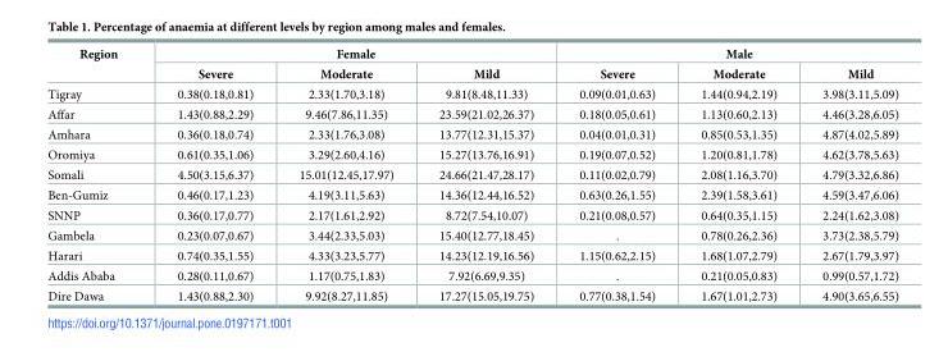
<table><thead><tr><td rowspan="2">Region</td><td colspan="3">Female</td><td colspan="3">Male</td></tr><tr><td>Severe</td><td>Moderate</td><td>Mild</td><td>Severe</td><td>Moderate</td><td>Mild</td></tr></thead><tbody><tr><td>Tigray</td><td>0.38(0.18,0.81)</td><td>2.33(1.70,3.18)</td><td>9.81(8.48,11.33)</td><td>0.09(0.01,0.63)</td><td>1.44(0.94,2.19)</td><td>3.98(3.11,5.09)</td></tr><tr><td>Affar</td><td>1.43(0.88,2.29)</td><td>9.46(7.86,11.35)</td><td>23.59(21.02,26.37)</td><td>0.18(0.05,0.61)</td><td>1.13(0.60,2.13)</td><td>4.46(3.28,6.05)</td></tr><tr><td>Amhara</td><td>0.36(0.18,0.74)</td><td>2.33(1.76,3.08)</td><td>13.77(12.31,15.37)</td><td>0.04(0.01,0.31)</td><td>0.85(0.53,1.35)</td><td>4.87(4.02,5.89)</td></tr><tr><td>Oromiya</td><td>0.61(0.35,1.06)</td><td>3.29(2.60,4.16)</td><td>15.27(13.76,16.91)</td><td>0.19(0.07,0.52)</td><td>1.20(0.81,1.78)</td><td>4.62(3.78,5.63)</td></tr><tr><td>Somali</td><td>4.50(3.15,6.37)</td><td>15.01(12.45,17.97)</td><td>24.66(21.47,28.17)</td><td>0.11(0.02,0.79)</td><td>2.08(1.16,3.70)</td><td>4.79(3.32,6.86)</td></tr><tr><td>Ben-Gumiz</td><td>0.46(0.17,1.23)</td><td>4.19(3.11,5.63)</td><td>14.36(12.44,16.52)</td><td>0.63(0.26,1.55)</td><td>2.39(1.58,3.61)</td><td>4.59(3.47,6.06)</td></tr><tr><td>SNNP</td><td>0.36(0.17,0.77)</td><td>2.17(1.61,2.92)</td><td>8.72(7.54,10.07)</td><td>0.21(0.08,0.57)</td><td>0.64(0.35,1.15)</td><td>2.24(1.62,3.08)</td></tr><tr><td>Gambela</td><td>0.23(0.07,0.67)</td><td>3.44(2.33,5.03)</td><td>15.40(12.77,18.45)</td><td>.</td><td>0.78(0.26,2.36)</td><td>3.73(2.38,5.79)</td></tr><tr><td>Harari</td><td>0.74(0.35,1.55)</td><td>4.33(3.23,5.77)</td><td>14.23(12.19,16.56)</td><td>1.15(0.62,2.15)</td><td>1.68(1.07,2.79)</td><td>2.67(1.79,3.97)</td></tr><tr><td>Addis Ababa</td><td>0.28(0.11,0.67)</td><td>1.17(0.75,1.83)</td><td>7.92(6.69,9.35)</td><td>.</td><td>0.21(0.05,0.83)</td><td>0.99(0.57,1.72)</td></tr><tr><td>Dire Dawa</td><td>1.43(0.88,2.30)</td><td>9.92(8.27,11.85)</td><td>17.27(15.05,19.75)</td><td>0.77(0.38,1.54)</td><td>1.67(1.01,2.73)</td><td>4.90(3.65,6.55)</td></tr></tbody></table>